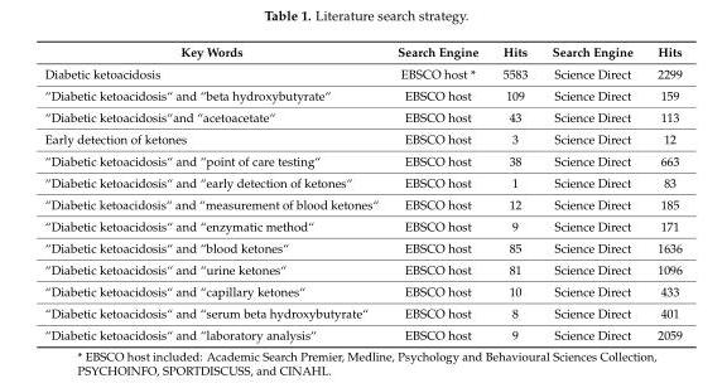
<table><thead><tr><td>Key Words</td><td>Search Engine</td><td>Hits</td><td>Search Engine</td><td>Hits</td></tr></thead><tbody><tr><td>Diabetic ketoacidosis</td><td>EBSCO host *</td><td>5583</td><td>Science Direct</td><td>2299</td></tr><tr><td>“Diabetic ketoacidosis“ and “beta hydroxybutyrate“</td><td>EBSCO host</td><td>109</td><td>Science Direct</td><td>159</td></tr><tr><td>“Diabetic ketoacidosis“and “acetoacetate“</td><td>EBSCO host</td><td>43</td><td>Science Direct</td><td>113</td></tr><tr><td>Early detection of ketones</td><td>EBSCO host</td><td>3</td><td>Science Direct</td><td>12</td></tr><tr><td>“Diabetic ketoacidosis“ and “point of care testing“</td><td>EBSCO host</td><td>38</td><td>Science Direct</td><td>663</td></tr><tr><td>“Diabetic ketoacidosis“ and “early detection of ketones“</td><td>EBSCO host</td><td>1</td><td>Science Direct</td><td>83</td></tr><tr><td>“Diabetic ketoacidosis“ and “measurement of blood ketones“</td><td>EBSCO host</td><td>12</td><td>Science Direct</td><td>185</td></tr><tr><td>“Diabetic ketoacidosis“ and “enzymatic method“</td><td>EBSCO host</td><td>9</td><td>Science Direct</td><td>171</td></tr><tr><td>“Diabetic ketoacidosis“ and “blood ketones“</td><td>EBSCO host</td><td>85</td><td>Science Direct</td><td>1636</td></tr><tr><td>“Diabetic ketoacidosis“ and “urine ketones“</td><td>EBSCO host</td><td>81</td><td>Science Direct</td><td>1096</td></tr><tr><td>“Diabetic ketoacidosis“ and “capillary ketones“</td><td>EBSCO host</td><td>10</td><td>Science Direct</td><td>433</td></tr><tr><td>“Diabetic ketoacidosis“ and “serum beta hydroxybutyrate“</td><td>EBSCO host</td><td>8</td><td>Science Direct</td><td>401</td></tr><tr><td>“Diabetic ketoacidosis“ and “laboratory analysis“</td><td>EBSCO host</td><td>9</td><td>Science Direct</td><td>2059</td></tr></tbody></table>